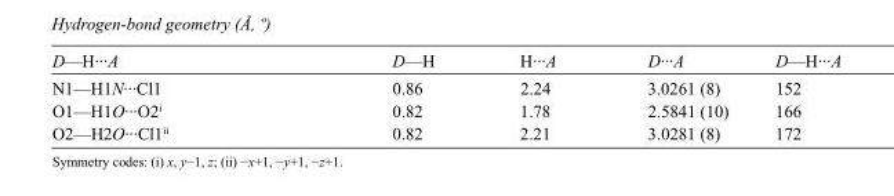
<table><tbody><tr><td>D—H···A</td><td>D—H</td><td>H···A</td><td>D···A</td><td>D—H···A</td></tr><tr><td>N1—H1N···Cl1</td><td>0.86</td><td>2.24</td><td>3.0261 (8)</td><td>152</td></tr><tr><td>O1—H1O···O2<sup>i</sup></td><td>0.82</td><td>1.78</td><td>2.5841 (10)</td><td>166</td></tr><tr><td>O2—H2O···Cl1<sup>ii</sup></td><td>0.82</td><td>2.21</td><td>3.0281 (8)</td><td>172</td></tr></tbody></table>